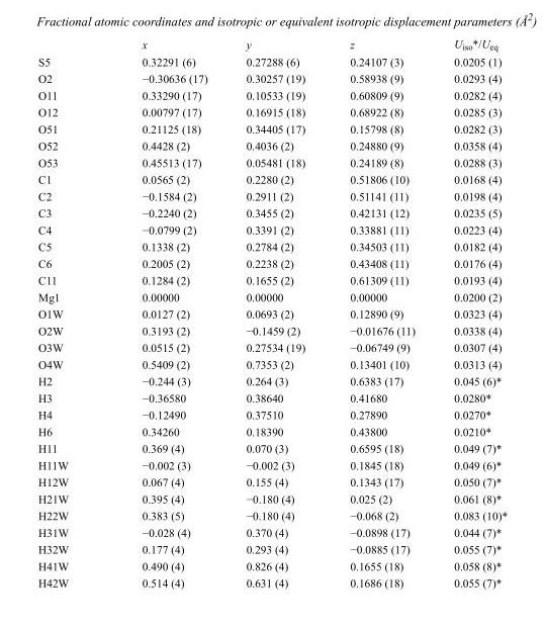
<table><thead><tr><td></td><td>x</td><td>y</td><td>z</td><td>U<sub>iso</sub>*/U<sub>eq</sub></td></tr></thead><tbody><tr><td>S5</td><td>0.32291 (6)</td><td>0.27288 (6)</td><td>0.24107 (3)</td><td>0.0205 (1)</td></tr><tr><td>O2</td><td>−0.30636 (17)</td><td>0.30257 (19)</td><td>0.58938 (9)</td><td>0.0293 (4)</td></tr><tr><td>O11</td><td>0.33290 (17)</td><td>0.10533 (19)</td><td>0.60809 (9)</td><td>0.0282 (4)</td></tr><tr><td>O12</td><td>0.00797 (17)</td><td>0.16915 (18)</td><td>0.68922 (8)</td><td>0.0285 (3)</td></tr><tr><td>O51</td><td>0.21125 (18)</td><td>0.34405 (17)</td><td>0.15798 (8)</td><td>0.0282 (3)</td></tr><tr><td>O52</td><td>0.4428 (2)</td><td>0.4036 (2)</td><td>0.24880 (9)</td><td>0.0358 (4)</td></tr><tr><td>O53</td><td>0.45513 (17)</td><td>0.05481 (18)</td><td>0.24189 (8)</td><td>0.0288 (3)</td></tr><tr><td>C1</td><td>0.0565 (2)</td><td>0.2280 (2)</td><td>0.51806 (10)</td><td>0.0168 (4)</td></tr><tr><td>C2</td><td>−0.1584 (2)</td><td>0.2911 (2)</td><td>0.51141 (11)</td><td>0.0198 (4)</td></tr><tr><td>C3</td><td>−0.2240 (2)</td><td>0.3455 (2)</td><td>0.42131 (12)</td><td>0.0235 (5)</td></tr><tr><td>C4</td><td>−0.0799 (2)</td><td>0.3391 (2)</td><td>0.33881 (11)</td><td>0.0223 (4)</td></tr><tr><td>C5</td><td>0.1338 (2)</td><td>0.2784 (2)</td><td>0.34503 (11)</td><td>0.0182 (4)</td></tr><tr><td>C6</td><td>0.2005 (2)</td><td>0.2238 (2)</td><td>0.43408 (11)</td><td>0.0176 (4)</td></tr><tr><td>C11</td><td>0.1284 (2)</td><td>0.1655 (2)</td><td>0.61309 (11)</td><td>0.0193 (4)</td></tr><tr><td>Mg1</td><td>0.00000</td><td>0.00000</td><td>0.00000</td><td>0.0200 (2)</td></tr><tr><td>O1W</td><td>0.0127 (2)</td><td>0.0693 (2)</td><td>0.12890 (9)</td><td>0.0323 (4)</td></tr><tr><td>O2W</td><td>0.3193 (2)</td><td>−0.1459 (2)</td><td>−0.01676 (11)</td><td>0.0338 (4)</td></tr><tr><td>O3W</td><td>0.0515 (2)</td><td>0.27534 (19)</td><td>−0.06749 (9)</td><td>0.0307 (4)</td></tr><tr><td>O4W</td><td>0.5409 (2)</td><td>0.7353 (2)</td><td>0.13401 (10)</td><td>0.0313 (4)</td></tr><tr><td>H2</td><td>−0.244 (3)</td><td>0.264 (3)</td><td>0.6383 (17)</td><td>0.045 (6)*</td></tr><tr><td>H3</td><td>−0.36580</td><td>0.38640</td><td>0.41680</td><td>0.0280*</td></tr><tr><td>H4</td><td>−0.12490</td><td>0.37510</td><td>0.27890</td><td>0.0270*</td></tr><tr><td>H6</td><td>0.34260</td><td>0.18390</td><td>0.43800</td><td>0.0210*</td></tr><tr><td>H11</td><td>0.369 (4)</td><td>0.070 (3)</td><td>0.6595 (18)</td><td>0.049 (7)*</td></tr><tr><td>H11W</td><td>−0.002 (3)</td><td>−0.002 (3)</td><td>0.1845 (18)</td><td>0.049 (6)*</td></tr><tr><td>H12W</td><td>0.067 (4)</td><td>0.155 (4)</td><td>0.1343 (17)</td><td>0.050 (7)*</td></tr><tr><td>H21W</td><td>0.395 (4)</td><td>−0.180 (4)</td><td>0.025 (2)</td><td>0.061 (8)*</td></tr><tr><td>H22W</td><td>0.383 (5)</td><td>−0.180 (4)</td><td>−0.068 (2)</td><td>0.083 (10)*</td></tr><tr><td>H31W</td><td>−0.028 (4)</td><td>0.370 (4)</td><td>−0.0898 (17)</td><td>0.044 (7)*</td></tr><tr><td>H32W</td><td>0.177 (4)</td><td>0.293 (4)</td><td>−0.0885 (17)</td><td>0.055 (7)*</td></tr><tr><td>H41W</td><td>0.490 (4)</td><td>0.826 (4)</td><td>0.1655 (18)</td><td>0.058 (8)*</td></tr><tr><td>H42W</td><td>0.514 (4)</td><td>0.631 (4)</td><td>0.1686 (18)</td><td>0.055 (7)*</td></tr></tbody></table>